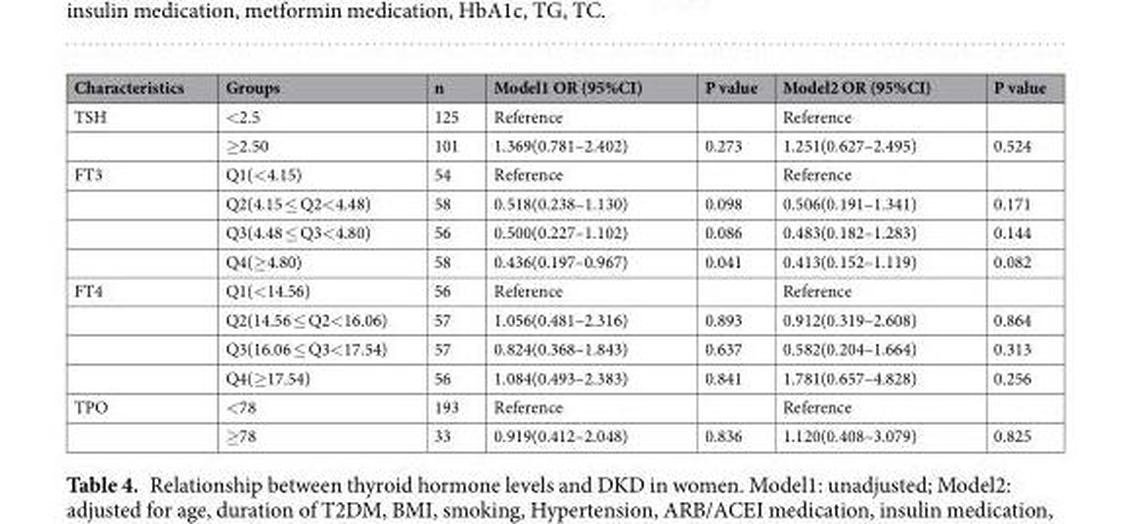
<table><thead><tr><td>Characteristics</td><td>Groups</td><td>n</td><td>Model1 OR (95%CI)</td><td>P value</td><td>Model2 OR (95%CI)</td><td>P value</td></tr></thead><tbody><tr><td rowspan="2">TSH</td><td>&lt;2.5</td><td>125</td><td>Reference</td><td></td><td>Reference</td><td></td></tr><tr><td>≥2.50</td><td>101</td><td>1.369(0.781–2.402)</td><td>0.273</td><td>1.251(0.627–2.495)</td><td>0.524</td></tr><tr><td rowspan="4">FT3</td><td>Q1(&lt;4.15)</td><td>54</td><td>Reference</td><td></td><td>Reference</td><td></td></tr><tr><td>Q2(4.15 ≤ Q2&lt;4.48)</td><td>58</td><td>0.518(0.238–1.130)</td><td>0.098</td><td>0.506(0.191–1.341)</td><td>0.171</td></tr><tr><td>Q3(4.48 ≤ Q3&lt;4.80)</td><td>56</td><td>0.500(0.227–1.102)</td><td>0.086</td><td>0.483(0.182–1.283)</td><td>0.144</td></tr><tr><td>Q4(≥4.80)</td><td>58</td><td>0.436(0.197–0.967)</td><td>0.041</td><td>0.413(0.152–1.119)</td><td>0.082</td></tr><tr><td rowspan="4">FT4</td><td>Q1(&lt;14.56)</td><td>56</td><td>Reference</td><td></td><td>Reference</td><td></td></tr><tr><td>Q2(14.56 ≤ Q2&lt;16.06)</td><td>57</td><td>1.056(0.481–2.316)</td><td>0.893</td><td>0.912(0.319–2.608)</td><td>0.864</td></tr><tr><td>Q3(16.06 ≤ Q3&lt;17.54)</td><td>57</td><td>0.824(0.368–1.843)</td><td>0.637</td><td>0.582(0.204–1.664)</td><td>0.313</td></tr><tr><td>Q4(≥17.54)</td><td>56</td><td>1.084(0.493–2.383)</td><td>0.841</td><td>1.781(0.657–4.828)</td><td>0.256</td></tr><tr><td rowspan="2">TPO</td><td>&lt;78</td><td>193</td><td>Reference</td><td></td><td>Reference</td><td></td></tr><tr><td>≥78</td><td>33</td><td>0.919(0.412–2.048)</td><td>0.836</td><td>1.120(0.408–3.079)</td><td>0.825</td></tr></tbody></table>